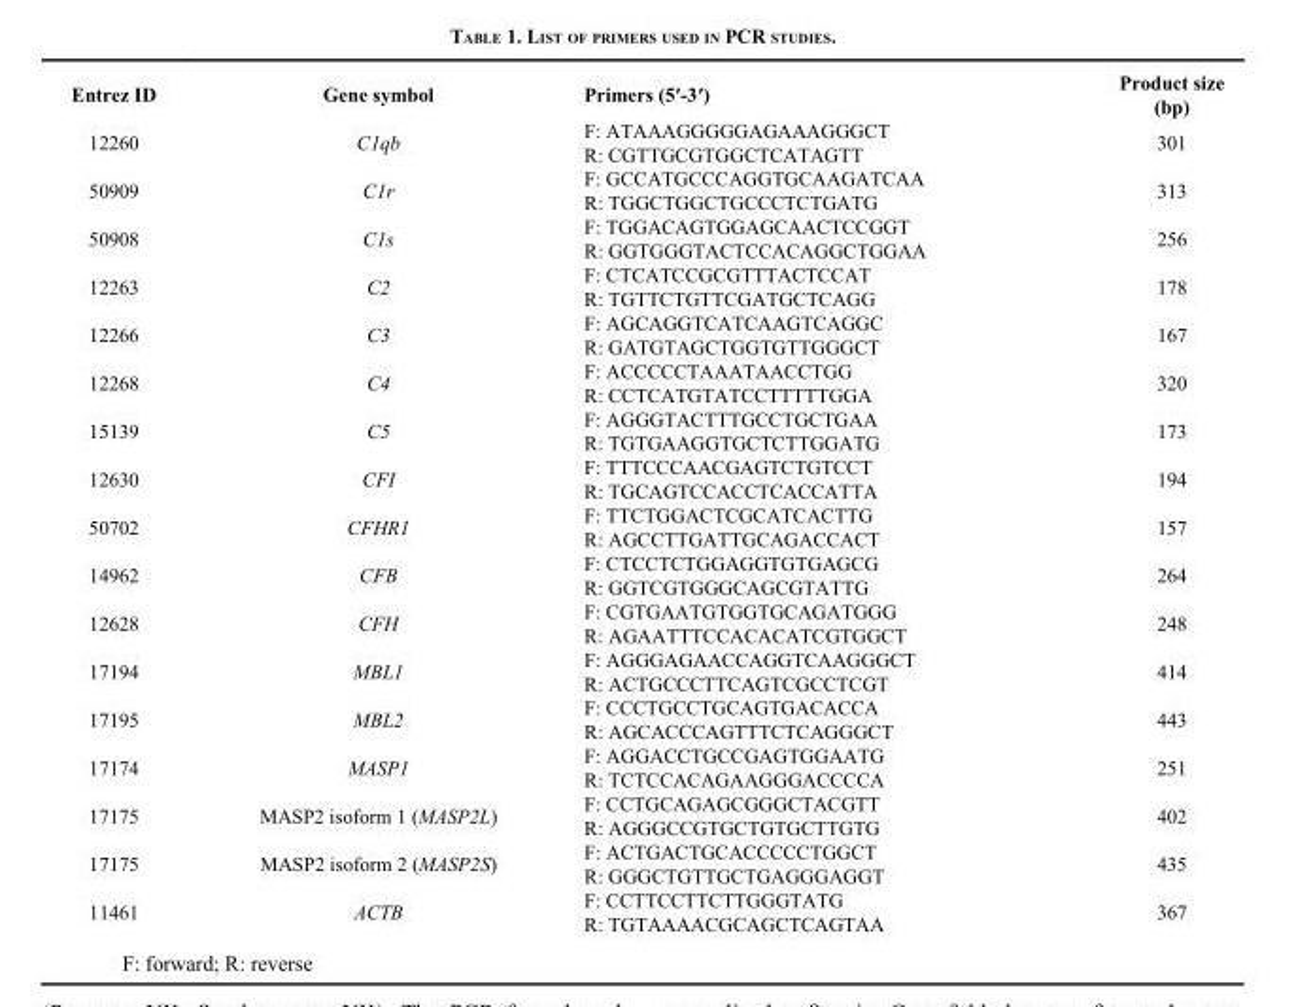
<table><thead><tr><td>Entrez ID</td><td>Gene symbol</td><td>Primers (5′-3′)</td><td>Product size (bp)</td></tr></thead><tbody><tr><td>12260</td><td>C1qb</td><td>F: ATAAAGGGGGAGAAAGGGCT R: CGTTGCGTGGCTCATAGTT</td><td>301</td></tr><tr><td>50909</td><td>C1r</td><td>F: GCCATGCCCAGGTGCAAGATCAA R: TGGCTGGCTGCCCTCTGATG</td><td>313</td></tr><tr><td>50908</td><td>C1s</td><td>F: TGGACAGTGGAGCAACTCCGGT R: GGTGGGTACTCCACAGGCTGGAA</td><td>256</td></tr><tr><td>12263</td><td>C2</td><td>F: CTCATCCGCGTTTACTCCAT R: TGTTCTGTTCGATGCTCAGG</td><td>178</td></tr><tr><td>12266</td><td>C3</td><td>F: AGCAGGTCATCAAGTCAGGC R: GATGTAGCTGGTGTTGGGCT</td><td>167</td></tr><tr><td>12268</td><td>C4</td><td>F: ACCCCCTAAATAACCTGG R: CCTCATGTATCCTTTTTGGA</td><td>320</td></tr><tr><td>15139</td><td>C5</td><td>F: AGGGTACTTTGCCTGCTGAA R: TGTGAAGGTGCTCTTGGATG</td><td>173</td></tr><tr><td>12630</td><td>CFI</td><td>F: TTTCCCAACGAGTCTGTCCT R: TGCAGTCCACCTCACCATTA</td><td>194</td></tr><tr><td>50702</td><td>CFHR1</td><td>F: TTCTGGACTCGCATCACTTG R: AGCCTTGATTGCAGACCACT</td><td>157</td></tr><tr><td>14962</td><td>CFB</td><td>F: CTCCTCTGGAGGTGTGAGCG R: GGTCGTGGGCAGCGTATTG</td><td>264</td></tr><tr><td>12628</td><td>CFH</td><td>F: CGTGAATGTGGTGCAGATGGG R: AGAATTTCCACACATCGTGGCT</td><td>248</td></tr><tr><td>17194</td><td>MBL1</td><td>F: AGGGAGAACCAGGTCAAGGGCT R: ACTGCCCTTCAGTCGCCTCGT</td><td>414</td></tr><tr><td>17195</td><td>MBL2</td><td>F: CCCTGCCTGCAGTGACACCA R: AGCACCCAGTTTCTCAGGGCT</td><td>443</td></tr><tr><td>17174</td><td>MASP1</td><td>F: AGGACCTGCCGAGTGGAATG R: TCTCCACAGAAGGGACCCCA</td><td>251</td></tr><tr><td>17175</td><td>MASP2 isoform 1 (MASP2L)</td><td>F: CCTGCAGAGCGGGCTACGTT R: AGGGCCGTGCTGTGCTTGTG</td><td>402</td></tr><tr><td>17175</td><td>MASP2 isoform 2 (MASP2S)</td><td>F: ACTGACTGCACCCCCTGGCT R: GGGCTGTTGCTGAGGGAGGT</td><td>435</td></tr><tr><td>11461</td><td>ACTB</td><td>F: CCTTCCTTCTTGGGTATG R: TGTAAAACGCAGCTCAGTAA</td><td>367</td></tr></tbody></table>